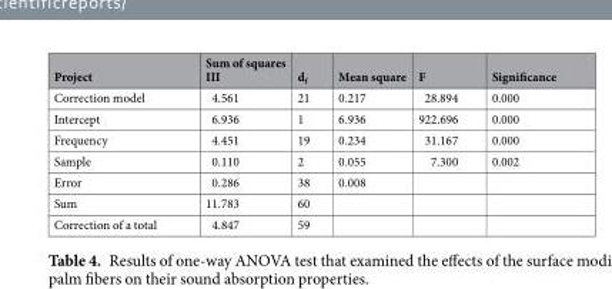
<table><thead><tr><td>Project</td><td>Sum of squares III</td><td>d<sub>f</sub></td><td>Mean square</td><td>F</td><td>Significance</td></tr></thead><tbody><tr><td>Correction model</td><td>4.561</td><td>21</td><td>0.217</td><td>28.894</td><td>0.000</td></tr><tr><td>Intercept</td><td>6.936</td><td>1</td><td>6.936</td><td>922.696</td><td>0.000</td></tr><tr><td>Frequency</td><td>4.451</td><td>19</td><td>0.234</td><td>31.167</td><td>0.000</td></tr><tr><td>Sample</td><td>0.110</td><td>2</td><td>0.055</td><td>7.300</td><td>0.002</td></tr><tr><td>Error</td><td>0.286</td><td>38</td><td>0.008</td><td></td><td></td></tr><tr><td>Sum</td><td>11.783</td><td>60</td><td></td><td></td><td></td></tr><tr><td>Correction of a total</td><td>4.847</td><td>59</td><td></td><td></td><td></td></tr></tbody></table>